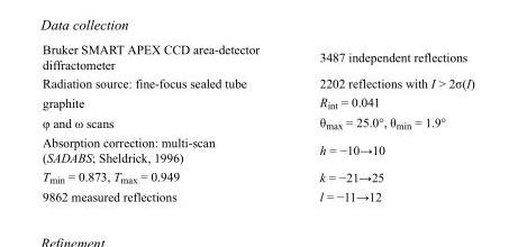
<table><tbody><tr><td>Bruker SMART APEX CCD area-detector diffractometer</td><td>3487 independent reflections</td></tr><tr><td>Radiation source: fine-focus sealed tube</td><td>2202 reflections with I &gt; 2σ(I)</td></tr><tr><td>graphite</td><td>R<sub>int</sub> = 0.041</td></tr><tr><td>φ and ω scans</td><td>θ<sub>max</sub> = 25.0°, θ<sub>min</sub> = 1.9°</td></tr><tr><td>Absorption correction: multi-scan (SADABS; Sheldrick, 1996)</td><td>h = −10→10</td></tr><tr><td>T<sub>min</sub> = 0.873, T<sub>max</sub> = 0.949</td><td>k = −21→25</td></tr><tr><td>9862 measured reflections</td><td>l = −11→12</td></tr></tbody></table>